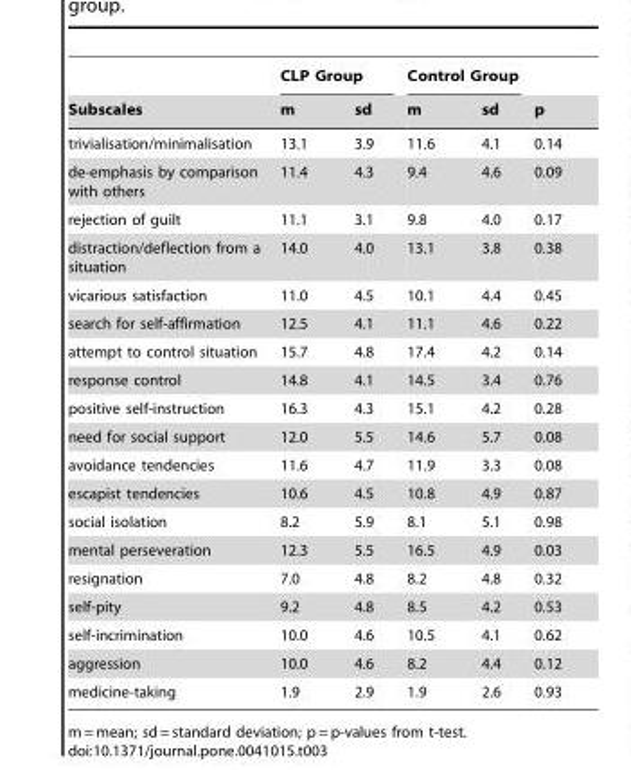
<table><thead><tr><td rowspan="2">Subscales</td><td colspan="2">CLP Group</td><td colspan="2">Control Group</td><td rowspan="2">p</td></tr><tr><td>m</td><td>sd</td><td>m</td><td>sd</td></tr></thead><tbody><tr><td>trivialisation/minimalisation</td><td>13.1</td><td>3.9</td><td>11.6</td><td>4.1</td><td>0.14</td></tr><tr><td>de-emphasis by comparison with others</td><td>11.4</td><td>4.3</td><td>9.4</td><td>4.6</td><td>0.09</td></tr><tr><td>rejection of guilt</td><td>11.1</td><td>3.1</td><td>9.8</td><td>4.0</td><td>0.17</td></tr><tr><td>distraction/deflection from a situation</td><td>14.0</td><td>4.0</td><td>13.1</td><td>3.8</td><td>0.38</td></tr><tr><td>vicarious satisfaction</td><td>11.0</td><td>4.5</td><td>10.1</td><td>4.4</td><td>0.45</td></tr><tr><td>search for self-affirmation</td><td>12.5</td><td>4.1</td><td>11.1</td><td>4.6</td><td>0.22</td></tr><tr><td>attempt to control situation</td><td>15.7</td><td>4.8</td><td>17.4</td><td>4.2</td><td>0.14</td></tr><tr><td>response control</td><td>14.8</td><td>4.1</td><td>14.5</td><td>3.4</td><td>0.76</td></tr><tr><td>positive self-instruction</td><td>16.3</td><td>4.3</td><td>15.1</td><td>4.2</td><td>0.28</td></tr><tr><td>need for social support</td><td>12.0</td><td>5.5</td><td>14.6</td><td>5.7</td><td>0.08</td></tr><tr><td>avoidance tendencies</td><td>11.6</td><td>4.7</td><td>11.9</td><td>3.3</td><td>0.08</td></tr><tr><td>escapist tendencies</td><td>10.6</td><td>4.5</td><td>10.8</td><td>4.9</td><td>0.87</td></tr><tr><td>social isolation</td><td>8.2</td><td>5.9</td><td>8.1</td><td>5.1</td><td>0.98</td></tr><tr><td>mental perseveration</td><td>12.3</td><td>5.5</td><td>16.5</td><td>4.9</td><td>0.03</td></tr><tr><td>resignation</td><td>7.0</td><td>4.8</td><td>8.2</td><td>4.8</td><td>0.32</td></tr><tr><td>self-pity</td><td>9.2</td><td>4.8</td><td>8.5</td><td>4.2</td><td>0.53</td></tr><tr><td>self-incrimination</td><td>10.0</td><td>4.6</td><td>10.5</td><td>4.1</td><td>0.62</td></tr><tr><td>aggression</td><td>10.0</td><td>4.6</td><td>8.2</td><td>4.4</td><td>0.12</td></tr><tr><td>medicine-taking</td><td>1.9</td><td>2.9</td><td>1.9</td><td>2.6</td><td>0.93</td></tr></tbody></table>